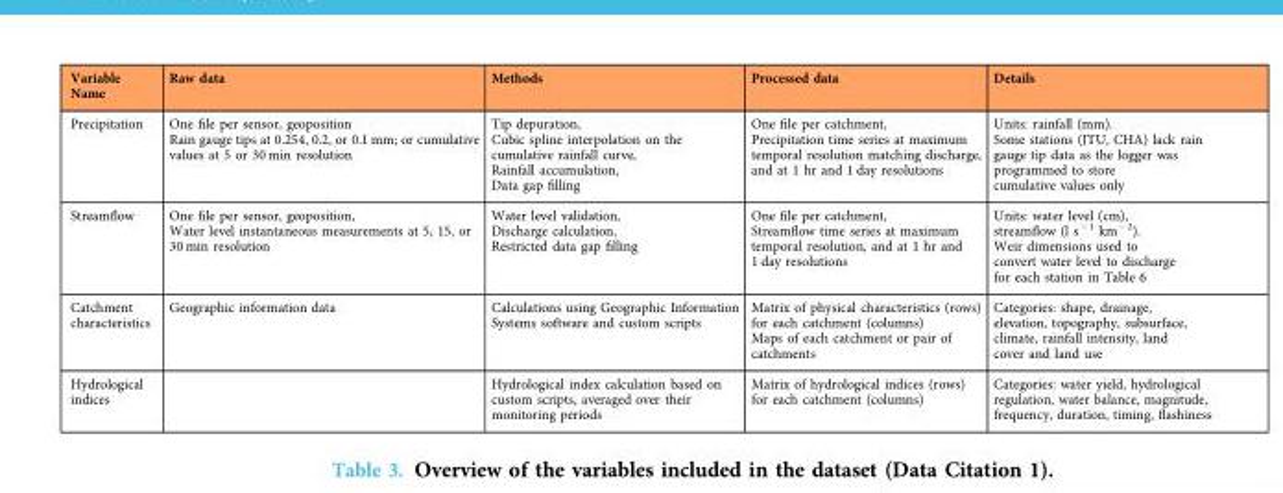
<table><thead><tr><td>Variable Name</td><td>Raw data</td><td>Methods</td><td>Processed data</td><td>Details</td></tr></thead><tbody><tr><td>Precipitation</td><td>One file per sensor, geoposition Rain gauge tips at 0.254, 0.2, or 0.1 mm; or cumulative values at 5 or 30 min resolution</td><td>Tip depuration, Cubic spline interpolation on the cumulative rainfall curve, Rainfall accumulation, Data gap filling</td><td>One file per catchment, Precipitation time series at maximum temporal resolution matching discharge, and at 1 hr and 1 day resolutions</td><td>Units: rainfall (mm). Some stations (JTU, CHA) lack rain gauge tip data as the logger was programmed to store cumulative values only</td></tr><tr><td>Streamflow</td><td>One file per sensor, geoposition, Water level instantaneous measurements at 5, 15, or 30 min resolution</td><td>Water level validation, Discharge calculation, Restricted data gap filling</td><td>One file per catchment, Streamflow time series at maximum temporal resolution, and at 1 hr and 1 day resolutions</td><td>Units: water level (cm), streamflow (l s<sup>−1</sup> km<sup>−2</sup>). Weir dimensions used to convert water level to discharge for each station in Table 6</td></tr><tr><td>Catchment characteristics</td><td>Geographic information data</td><td>Calculations using Geographic Information Systems software and custom scripts</td><td>Matrix of physical characteristics (rows) for each catchment (columns) Maps of each catchment or pair of catchments</td><td>Categories: shape, drainage, elevation, topography, subsurface, climate, rainfall intensity, land cover and land use</td></tr><tr><td>Hydrological indices</td><td></td><td>Hydrological index calculation based on custom scripts, averaged over their monitoring periods</td><td>Matrix of hydrological indices (rows) for each catchment (columns)</td><td>Categories: water yield, hydrological regulation, water balance, magnitude, frequency, duration, timing, flashiness</td></tr></tbody></table>